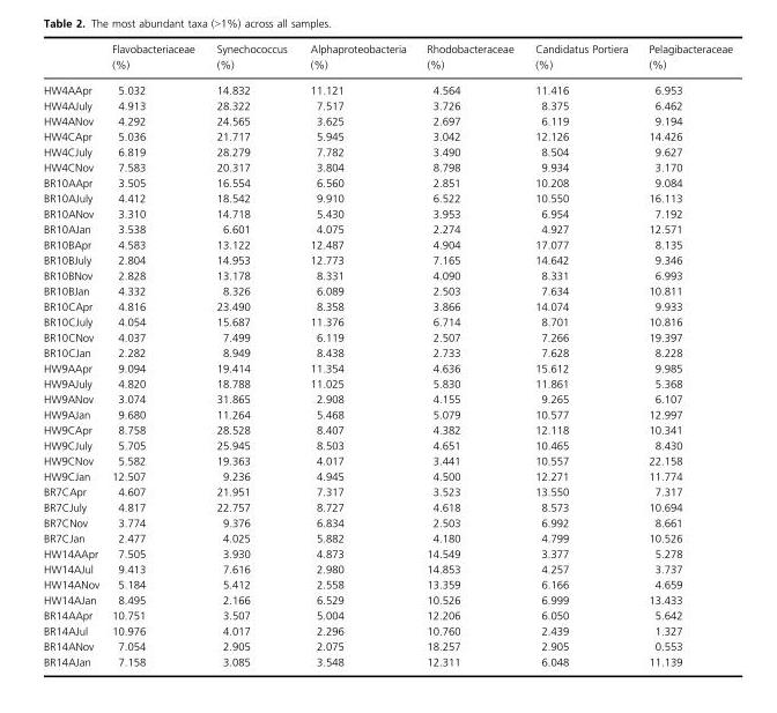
<table><thead><tr><td></td><td>Flavobacteriaceae (%)</td><td>Synechococcus (%)</td><td>Alphaproteobacteria (%)</td><td>Rhodobacteraceae (%)</td><td>Candidatus Portiera (%)</td><td>Pelagibacteraceae (%)</td></tr></thead><tbody><tr><td>HW4AApr</td><td>5.032</td><td>14.832</td><td>11.121</td><td>4.564</td><td>11.416</td><td>6.953</td></tr><tr><td>HW4AJuly</td><td>4.913</td><td>28.322</td><td>7.517</td><td>3.726</td><td>8.375</td><td>6.462</td></tr><tr><td>HW4ANov</td><td>4.292</td><td>24.565</td><td>3.625</td><td>2.697</td><td>6.119</td><td>9.194</td></tr><tr><td>HW4CApr</td><td>5.036</td><td>21.717</td><td>5.945</td><td>3.042</td><td>12.126</td><td>14.426</td></tr><tr><td>HW4CJuly</td><td>6.819</td><td>28.279</td><td>7.782</td><td>3.490</td><td>8.504</td><td>9.627</td></tr><tr><td>HW4CNov</td><td>7.583</td><td>20.317</td><td>3.804</td><td>8.798</td><td>9.934</td><td>3.170</td></tr><tr><td>BR10AApr</td><td>3.505</td><td>16.554</td><td>6.560</td><td>2.851</td><td>10.208</td><td>9.084</td></tr><tr><td>BR10AJuly</td><td>4.412</td><td>18.542</td><td>9.910</td><td>6.522</td><td>10.550</td><td>16.113</td></tr><tr><td>BR10ANov</td><td>3.310</td><td>14.718</td><td>5.430</td><td>3.953</td><td>6.954</td><td>7.192</td></tr><tr><td>BR10AJan</td><td>3.538</td><td>6.601</td><td>4.075</td><td>2.274</td><td>4.927</td><td>12.571</td></tr><tr><td>BR10BApr</td><td>4.583</td><td>13.122</td><td>12.487</td><td>4.904</td><td>17.077</td><td>8.135</td></tr><tr><td>BR10BJuly</td><td>2.804</td><td>14.953</td><td>12.773</td><td>7.165</td><td>14.642</td><td>9.346</td></tr><tr><td>BR10BNov</td><td>2.828</td><td>13.178</td><td>8.331</td><td>4.090</td><td>8.331</td><td>6.993</td></tr><tr><td>BR10BJan</td><td>4.332</td><td>8.326</td><td>6.089</td><td>2.503</td><td>7.634</td><td>10.811</td></tr><tr><td>BR10CApr</td><td>4.816</td><td>23.490</td><td>8.358</td><td>3.866</td><td>14.074</td><td>9.933</td></tr><tr><td>BR10CJuly</td><td>4.054</td><td>15.687</td><td>11.376</td><td>6.714</td><td>8.701</td><td>10.816</td></tr><tr><td>BR10CNov</td><td>4.037</td><td>7.499</td><td>6.119</td><td>2.507</td><td>7.266</td><td>19.397</td></tr><tr><td>BR10CJan</td><td>2.282</td><td>8.949</td><td>8.438</td><td>2.733</td><td>7.628</td><td>8.228</td></tr><tr><td>HW9AApr</td><td>9.094</td><td>19.414</td><td>11.354</td><td>4.636</td><td>15.612</td><td>9.985</td></tr><tr><td>HW9AJuly</td><td>4.820</td><td>18.788</td><td>11.025</td><td>5.830</td><td>11.861</td><td>5.368</td></tr><tr><td>HW9ANov</td><td>3.074</td><td>31.865</td><td>2.908</td><td>4.155</td><td>9.265</td><td>6.107</td></tr><tr><td>HW9AJan</td><td>9.680</td><td>11.264</td><td>5.468</td><td>5.079</td><td>10.577</td><td>12.997</td></tr><tr><td>HW9CApr</td><td>8.758</td><td>28.528</td><td>8.407</td><td>4.382</td><td>12.118</td><td>10.341</td></tr><tr><td>HW9CJuly</td><td>5.705</td><td>25.945</td><td>8.503</td><td>4.651</td><td>10.465</td><td>8.430</td></tr><tr><td>HW9CNov</td><td>5.582</td><td>19.363</td><td>4.017</td><td>3.441</td><td>10.557</td><td>22.158</td></tr><tr><td>HW9CJan</td><td>12.507</td><td>9.236</td><td>4.945</td><td>4.500</td><td>12.271</td><td>11.774</td></tr><tr><td>BR7CApr</td><td>4.607</td><td>21.951</td><td>7.317</td><td>3.523</td><td>13.550</td><td>7.317</td></tr><tr><td>BR7CJuly</td><td>4.817</td><td>22.757</td><td>8.727</td><td>4.618</td><td>8.573</td><td>10.694</td></tr><tr><td>BR7CNov</td><td>3.774</td><td>9.376</td><td>6.834</td><td>2.503</td><td>6.992</td><td>8.661</td></tr><tr><td>BR7CJan</td><td>2.477</td><td>4.025</td><td>5.882</td><td>4.180</td><td>4.799</td><td>10.526</td></tr><tr><td>HW14AApr</td><td>7.505</td><td>3.930</td><td>4.873</td><td>14.549</td><td>3.377</td><td>5.278</td></tr><tr><td>HW14AJul</td><td>9.413</td><td>7.616</td><td>2.980</td><td>14.853</td><td>4.257</td><td>3.737</td></tr><tr><td>HW14ANov</td><td>5.184</td><td>5.412</td><td>2.558</td><td>13.359</td><td>6.166</td><td>4.659</td></tr><tr><td>HW14AJan</td><td>8.495</td><td>2.166</td><td>6.529</td><td>10.526</td><td>6.999</td><td>13.433</td></tr><tr><td>BR14AApr</td><td>10.751</td><td>3.507</td><td>5.004</td><td>12.206</td><td>6.050</td><td>5.642</td></tr><tr><td>BR14AJul</td><td>10.976</td><td>4.017</td><td>2.296</td><td>10.760</td><td>2.439</td><td>1.327</td></tr><tr><td>BR14ANov</td><td>7.054</td><td>2.905</td><td>2.075</td><td>18.257</td><td>2.905</td><td>0.553</td></tr><tr><td>BR14AJan</td><td>7.158</td><td>3.085</td><td>3.548</td><td>12.311</td><td>6.048</td><td>11.139</td></tr></tbody></table>